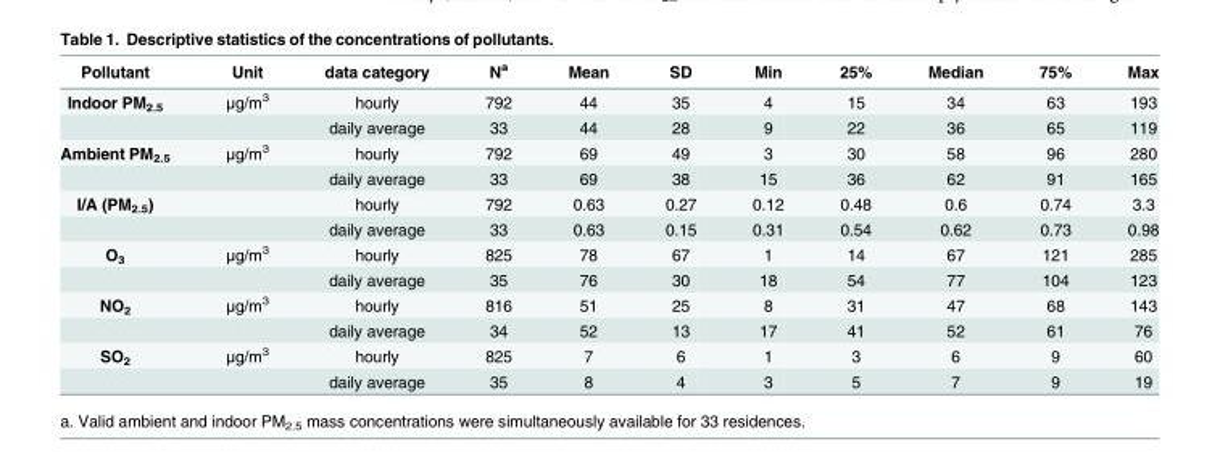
<table><thead><tr><td>Pollutant</td><td>Unit</td><td>data category</td><td>N<sup>a</sup></td><td>Mean</td><td>SD</td><td>Min</td><td>25%</td><td>Median</td><td>75%</td><td>Max</td></tr></thead><tbody><tr><td rowspan="2">Indoor PM<sub>2.5</sub></td><td>μg/m<sup>3</sup></td><td>hourly</td><td>792</td><td>44</td><td>35</td><td>4</td><td>15</td><td>34</td><td>63</td><td>193</td></tr><tr><td></td><td>daily average</td><td>33</td><td>44</td><td>28</td><td>9</td><td>22</td><td>36</td><td>65</td><td>119</td></tr><tr><td rowspan="2">Ambient PM<sub>2.5</sub></td><td>μg/m<sup>3</sup></td><td>hourly</td><td>792</td><td>69</td><td>49</td><td>3</td><td>30</td><td>58</td><td>96</td><td>280</td></tr><tr><td></td><td>daily average</td><td>33</td><td>69</td><td>38</td><td>15</td><td>36</td><td>62</td><td>91</td><td>165</td></tr><tr><td rowspan="2">I/A (PM<sub>2.5</sub>)</td><td></td><td>hourly</td><td>792</td><td>0.63</td><td>0.27</td><td>0.12</td><td>0.48</td><td>0.6</td><td>0.74</td><td>3.3</td></tr><tr><td></td><td>daily average</td><td>33</td><td>0.63</td><td>0.15</td><td>0.31</td><td>0.54</td><td>0.62</td><td>0.73</td><td>0.98</td></tr><tr><td rowspan="2">O<sub>3</sub></td><td>μg/m<sup>3</sup></td><td>hourly</td><td>825</td><td>78</td><td>67</td><td>1</td><td>14</td><td>67</td><td>121</td><td>285</td></tr><tr><td></td><td>daily average</td><td>35</td><td>76</td><td>30</td><td>18</td><td>54</td><td>77</td><td>104</td><td>123</td></tr><tr><td rowspan="2">NO<sub>2</sub></td><td>μg/m<sup>3</sup></td><td>hourly</td><td>816</td><td>51</td><td>25</td><td>8</td><td>31</td><td>47</td><td>68</td><td>143</td></tr><tr><td></td><td>daily average</td><td>34</td><td>52</td><td>13</td><td>17</td><td>41</td><td>52</td><td>61</td><td>76</td></tr><tr><td rowspan="2">SO<sub>2</sub></td><td>μg/m<sup>3</sup></td><td>hourly</td><td>825</td><td>7</td><td>6</td><td>1</td><td>3</td><td>6</td><td>9</td><td>60</td></tr><tr><td></td><td>daily average</td><td>35</td><td>8</td><td>4</td><td>3</td><td>5</td><td>7</td><td>9</td><td>19</td></tr></tbody></table>